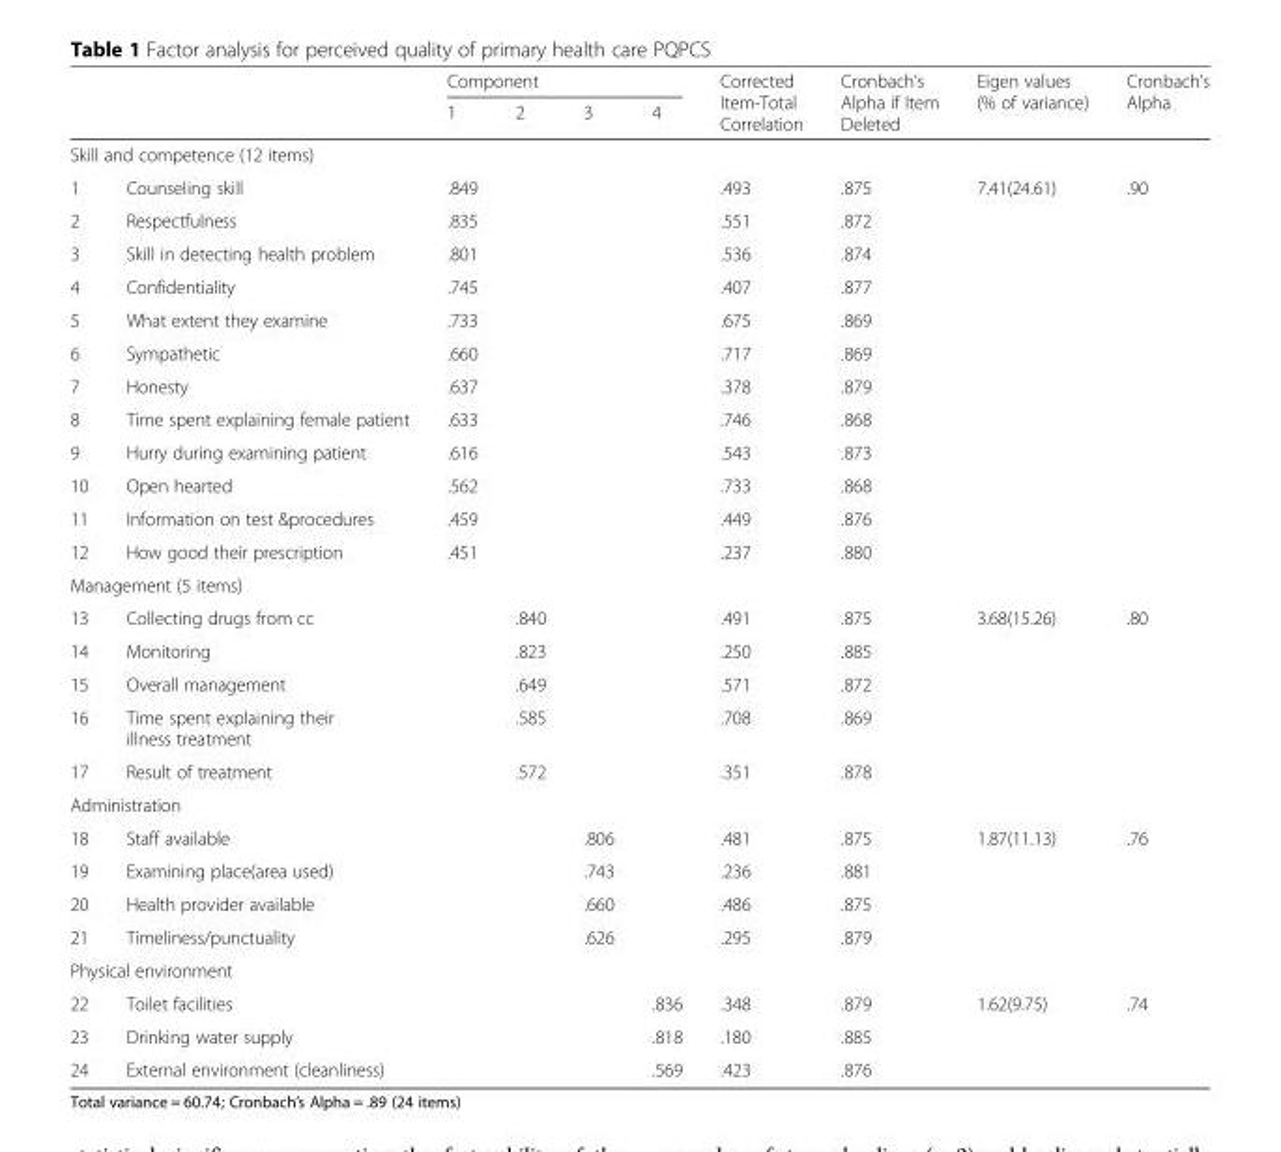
<table><thead><tr><td rowspan="2"></td><td rowspan="2"></td><td colspan="4">Component</td><td rowspan="2">Corrected Item-Total Correlation</td><td rowspan="2">Cronbach’s Alpha if Item Deleted</td><td rowspan="2">Eigen values (% of variance)</td><td rowspan="2">Cronbach’s Alpha</td></tr><tr><td>1</td><td>2</td><td>3</td><td>4</td></tr></thead><tbody><tr><td colspan="10">Skill and competence (12 items)</td></tr><tr><td>1</td><td>Counseling skill</td><td>.849</td><td></td><td></td><td></td><td>.493</td><td>.875</td><td>7.41(24.61)</td><td>.90</td></tr><tr><td>2</td><td>Respectfulness</td><td>.835</td><td></td><td></td><td></td><td>.551</td><td>.872</td><td></td><td></td></tr><tr><td>3</td><td>Skill in detecting health problem</td><td>.801</td><td></td><td></td><td></td><td>.536</td><td>.874</td><td></td><td></td></tr><tr><td>4</td><td>Confidentiality</td><td>.745</td><td></td><td></td><td></td><td>.407</td><td>.877</td><td></td><td></td></tr><tr><td>5</td><td>What extent they examine</td><td>.733</td><td></td><td></td><td></td><td>.675</td><td>.869</td><td></td><td></td></tr><tr><td>6</td><td>Sympathetic</td><td>.660</td><td></td><td></td><td></td><td>.717</td><td>.869</td><td></td><td></td></tr><tr><td>7</td><td>Honesty</td><td>.637</td><td></td><td></td><td></td><td>.378</td><td>.879</td><td></td><td></td></tr><tr><td>8</td><td>Time spent explaining female patient</td><td>.633</td><td></td><td></td><td></td><td>.746</td><td>.868</td><td></td><td></td></tr><tr><td>9</td><td>Hurry during examining patient</td><td>.616</td><td></td><td></td><td></td><td>.543</td><td>.873</td><td></td><td></td></tr><tr><td>10</td><td>Open hearted</td><td>.562</td><td></td><td></td><td></td><td>.733</td><td>.868</td><td></td><td></td></tr><tr><td>11</td><td>Information on test &amp;procedures</td><td>.459</td><td></td><td></td><td></td><td>.449</td><td>.876</td><td></td><td></td></tr><tr><td>12</td><td>How good their prescription</td><td>.451</td><td></td><td></td><td></td><td>.237</td><td>.880</td><td></td><td></td></tr><tr><td colspan="10">Management (5 items)</td></tr><tr><td>13</td><td>Collecting drugs from cc</td><td></td><td>.840</td><td></td><td></td><td>.491</td><td>.875</td><td>3.68(15.26)</td><td>.80</td></tr><tr><td>14</td><td>Monitoring</td><td></td><td>.823</td><td></td><td></td><td>.250</td><td>.885</td><td></td><td></td></tr><tr><td>15</td><td>Overall management</td><td></td><td>.649</td><td></td><td></td><td>.571</td><td>.872</td><td></td><td></td></tr><tr><td>16</td><td>Time spent explaining their illness treatment</td><td></td><td>.585</td><td></td><td></td><td>.708</td><td>.869</td><td></td><td></td></tr><tr><td>17</td><td>Result of treatment</td><td></td><td>.572</td><td></td><td></td><td>.351</td><td>.878</td><td></td><td></td></tr><tr><td colspan="10">Administration</td></tr><tr><td>18</td><td>Staff available</td><td></td><td></td><td>.806</td><td></td><td>.481</td><td>.875</td><td>1.87(11.13)</td><td>.76</td></tr><tr><td>19</td><td>Examining place(area used)</td><td></td><td></td><td>.743</td><td></td><td>.236</td><td>.881</td><td></td><td></td></tr><tr><td>20</td><td>Health provider available</td><td></td><td></td><td>.660</td><td></td><td>.486</td><td>.875</td><td></td><td></td></tr><tr><td>21</td><td>Timeliness/punctuality</td><td></td><td></td><td>.626</td><td></td><td>.295</td><td>.879</td><td></td><td></td></tr><tr><td colspan="10">Physical environment</td></tr><tr><td>22</td><td>Toilet facilities</td><td></td><td></td><td></td><td>.836</td><td>.348</td><td>.879</td><td>1.62(9.75)</td><td>.74</td></tr><tr><td>23</td><td>Drinking water supply</td><td></td><td></td><td></td><td>.818</td><td>.180</td><td>.885</td><td></td><td></td></tr><tr><td>24</td><td>External environment (cleanliness)</td><td></td><td></td><td></td><td>.569</td><td>.423</td><td>.876</td><td></td><td></td></tr></tbody></table>